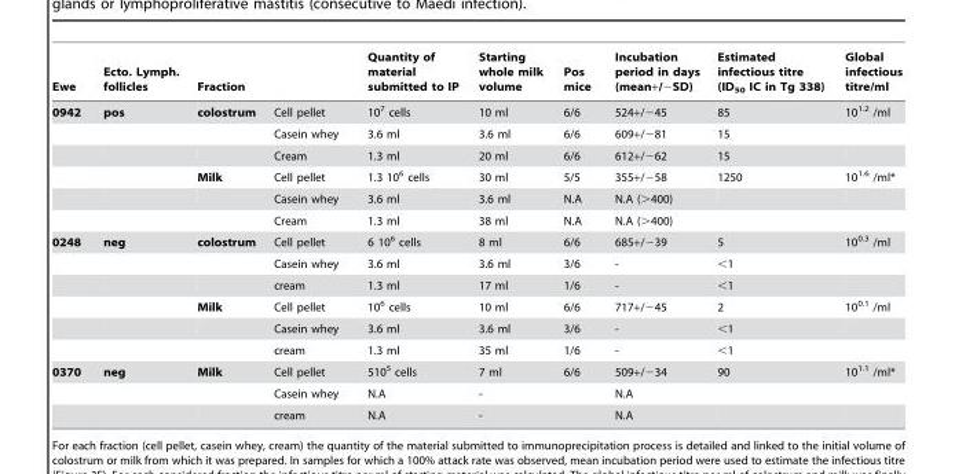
<table><thead><tr><td rowspan="2">Ewe 0942</td><td rowspan="2">Ecto. Lymph. follicles pos</td><td colspan="2">Fraction</td><td rowspan="2">Quantity of material submitted to IP 10<sup>7</sup> cells</td><td rowspan="2">Starting whole milk volume 10 ml</td><td rowspan="2">Pos mice 6/6</td><td rowspan="2">Incubation period in days (mean+/−SD) 524+/−45</td><td rowspan="2">Estimated infectious titre (ID<sub>50</sub> IC in Tg 338) 85</td><td rowspan="2">Global infectious titre/ml 10<sup>1.2</sup> /ml</td></tr><tr><td>colostrum</td><td>Cell pellet</td></tr></thead><tbody><tr><td></td><td></td><td></td><td>Casein whey</td><td>3.6 ml</td><td>3.6 ml</td><td>6/6</td><td>609+/−81</td><td>15</td><td></td></tr><tr><td></td><td></td><td></td><td>Cream</td><td>1.3 ml</td><td>20 ml</td><td>6/6</td><td>612+/−62</td><td>15</td><td></td></tr><tr><td></td><td></td><td>Milk</td><td>Cell pellet</td><td>1.3 10<sup>6</sup> cells</td><td>30 ml</td><td>5/5</td><td>355+/−58</td><td>1250</td><td>10<sup>1.6</sup> /ml*</td></tr><tr><td></td><td></td><td></td><td>Casein whey</td><td>3.6 ml</td><td>3.6 ml</td><td>N.A</td><td>N.A (&gt;400)</td><td></td><td></td></tr><tr><td></td><td></td><td></td><td>Cream</td><td>1.3 ml</td><td>38 ml</td><td>N.A</td><td>N.A (&gt;400)</td><td></td><td></td></tr><tr><td rowspan="6">0248</td><td>neg</td><td>colostrum</td><td>Cell pellet</td><td>6 10<sup>6</sup> cells</td><td>8 ml</td><td>6/6</td><td>685+/−39</td><td>5</td><td>10<sup>0.3</sup> /ml</td></tr><tr><td></td><td></td><td>Casein whey</td><td>3.6 ml</td><td>3.6 ml</td><td>3/6</td><td>-</td><td>&lt;1</td><td></td></tr><tr><td></td><td></td><td>cream</td><td>1.3 ml</td><td>17 ml</td><td>1/6</td><td>-</td><td>&lt;1</td><td></td></tr><tr><td></td><td>Milk</td><td>Cell pellet</td><td>10<sup>6</sup> cells</td><td>10 ml</td><td>6/6</td><td>717+/−45</td><td>2</td><td>10<sup>0.1</sup> /ml</td></tr><tr><td></td><td></td><td>Casein whey</td><td>3.6 ml</td><td>3.6 ml</td><td>3/6</td><td>-</td><td>&lt;1</td><td></td></tr><tr><td></td><td></td><td>cream</td><td>1.3 ml</td><td>35 ml</td><td>1/6</td><td>-</td><td>&lt;1</td><td></td></tr><tr><td rowspan="3">0370</td><td>neg</td><td>Milk</td><td>Cell pellet</td><td>510<sup>5</sup> cells</td><td>7 ml</td><td>6/6</td><td>509+/−34</td><td>90</td><td>10<sup>1.1</sup> /ml*</td></tr><tr><td></td><td></td><td>Casein whey</td><td>N.A</td><td>-</td><td></td><td>N.A</td><td></td><td></td></tr><tr><td></td><td></td><td>cream</td><td>N.A</td><td>-</td><td></td><td>N.A</td><td></td><td></td></tr></tbody></table>